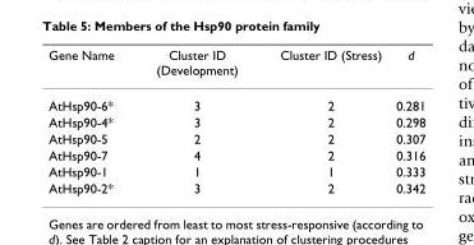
<table><thead><tr><td>Gene Name</td><td>Cluster ID (Development)</td><td>Cluster ID (Stress)</td><td>d</td></tr></thead><tbody><tr><td>AtHsp90-6*</td><td>3</td><td>2</td><td>0.281</td></tr><tr><td>AtHsp90-4*</td><td>3</td><td>2</td><td>0.298</td></tr><tr><td>AtHsp90-5</td><td>2</td><td>2</td><td>0.307</td></tr><tr><td>AtHsp90-7</td><td>4</td><td>2</td><td>0.316</td></tr><tr><td>AtHsp90-1</td><td>1</td><td>1</td><td>0.333</td></tr><tr><td>AtHsp90-2*</td><td>3</td><td>2</td><td>0.342</td></tr></tbody></table>